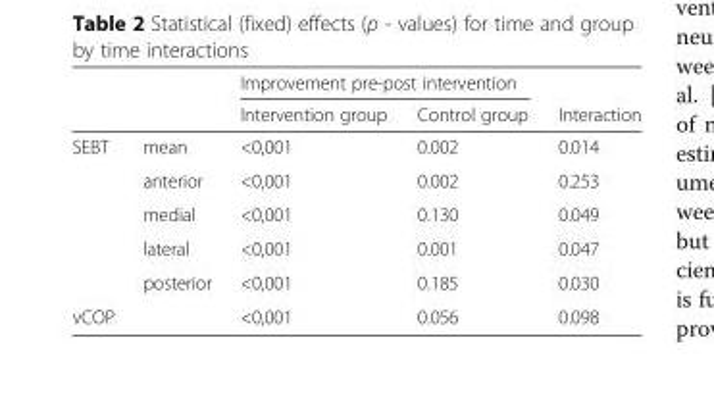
<table><thead><tr><td rowspan="2"></td><td rowspan="2"></td><td colspan="2">Improvement pre-post intervention</td><td rowspan="2">Interaction</td></tr><tr><td>Intervention group</td><td>Control group</td></tr></thead><tbody><tr><td rowspan="5">SEBT</td><td>mean</td><td>&lt;0,001</td><td>0.002</td><td>0.014</td></tr><tr><td>anterior</td><td>&lt;0,001</td><td>0.002</td><td>0.253</td></tr><tr><td>medial</td><td>&lt;0,001</td><td>0.130</td><td>0.049</td></tr><tr><td>lateral</td><td>&lt;0,001</td><td>0.001</td><td>0.047</td></tr><tr><td>posterior</td><td>&lt;0,001</td><td>0.185</td><td>0.030</td></tr><tr><td>vCOP</td><td></td><td>&lt;0,001</td><td>0.056</td><td>0.098</td></tr></tbody></table>